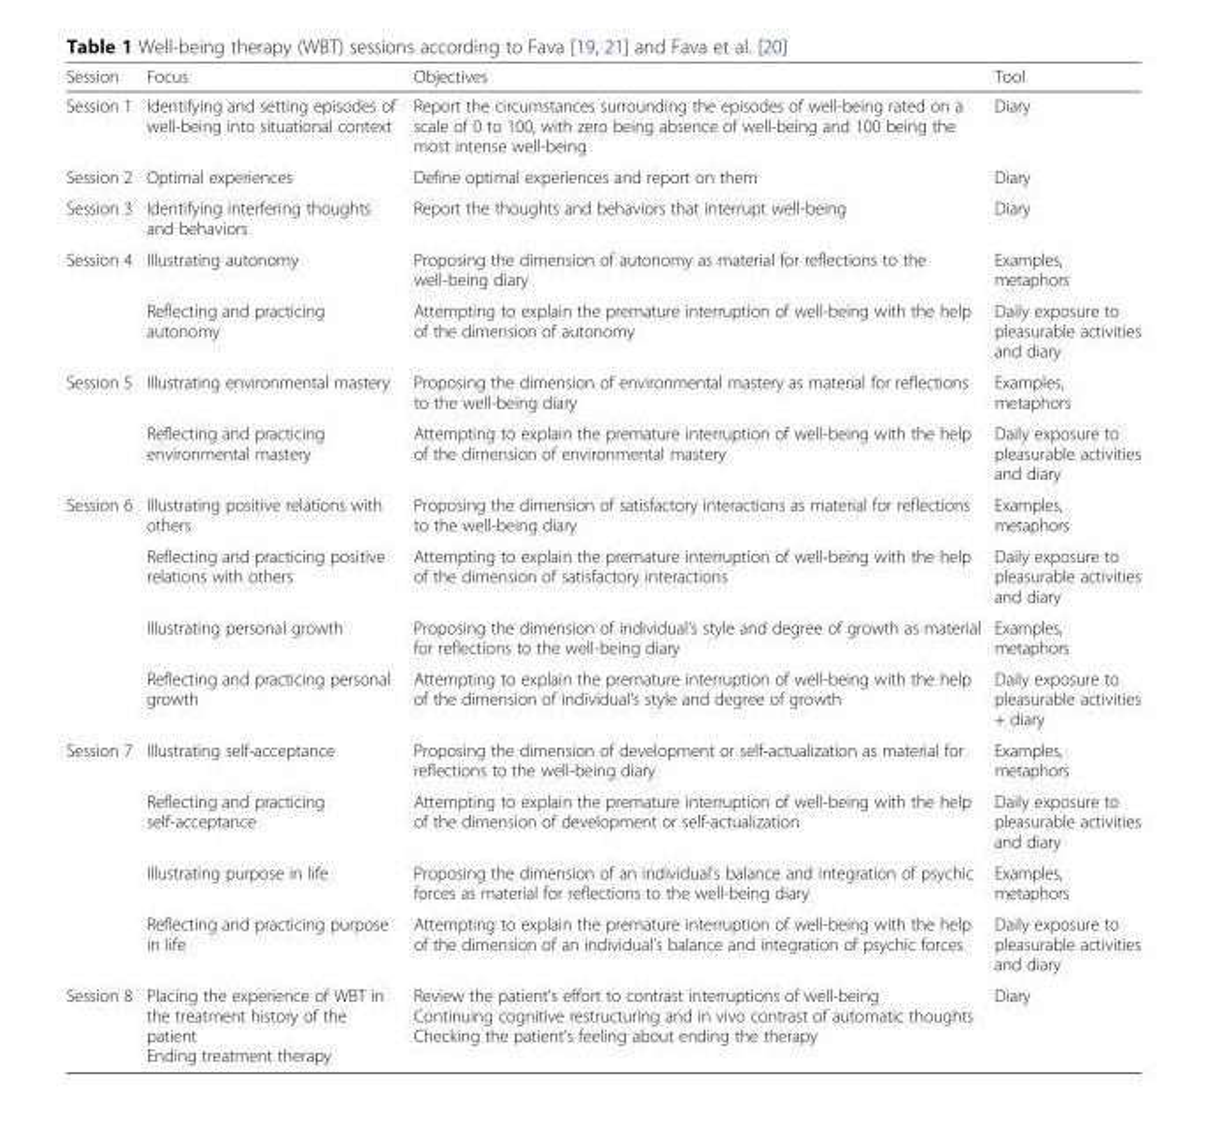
<table><thead><tr><td>Session</td><td>Focus</td><td>Objectives</td><td>Tool</td></tr></thead><tbody><tr><td>Session 1</td><td>Identifying and setting episodes of well-being into situational context</td><td>Report the circumstances surrounding the episodes of well-being rated on a scale of 0 to 100, with zero being absence of well-being and 100 being the most intense well-being</td><td>Diary</td></tr><tr><td>Session 2</td><td>Optimal experiences</td><td>Define optimal experiences and report on them</td><td>Diary</td></tr><tr><td>Session 3</td><td>Identifying interfering thoughts and behaviors</td><td>Report the thoughts and behaviors that interrupt well-being</td><td>Diary</td></tr><tr><td rowspan="2">Session 4</td><td>Illustrating autonomy</td><td>Proposing the dimension of autonomy as material for reflections to the well-being diary</td><td>Examples, metaphors</td></tr><tr><td>Reflecting and practicing autonomy</td><td>Attempting to explain the premature interruption of well-being with the help of the dimension of autonomy</td><td>Daily exposure to pleasurable activities and diary</td></tr><tr><td rowspan="2">Session 5</td><td>Illustrating environmental mastery</td><td>Proposing the dimension of environmental mastery as material for reflections to the well-being diary</td><td>Examples, metaphors</td></tr><tr><td>Reflecting and practicing environmental mastery</td><td>Attempting to explain the premature interruption of well-being with the help of the dimension of environmental mastery</td><td>Daily exposure to pleasurable activities and diary</td></tr><tr><td rowspan="4">Session 6</td><td>Illustrating positive relations with others</td><td>Proposing the dimension of satisfactory interactions as material for reflections to the well-being diary</td><td>Examples, metaphors</td></tr><tr><td>Reflecting and practicing positive relations with others</td><td>Attempting to explain the premature interruption of well-being with the help of the dimension of satisfactory interactions</td><td>Daily exposure to pleasurable activities and diary</td></tr><tr><td>Illustrating personal growth</td><td>Proposing the dimension of individual’s style and degree of growth as material for reflections to the well-being diary</td><td>Examples, metaphors</td></tr><tr><td>Reflecting and practicing personal growth</td><td>Attempting to explain the premature interruption of well-being with the help of the dimension of individual’s style and degree of growth</td><td>Daily exposure to pleasurable activities + diary</td></tr><tr><td rowspan="4">Session 7</td><td>Illustrating self-acceptance</td><td>Proposing the dimension of development or self-actualization as material for reflections to the well-being diary</td><td>Examples, metaphors</td></tr><tr><td>Reflecting and practicing self-acceptance</td><td>Attempting to explain the premature interruption of well-being with the help of the dimension of development or self-actualization</td><td>Daily exposure to pleasurable activities and diary</td></tr><tr><td>Illustrating purpose in life</td><td>Proposing the dimension of an individual’s balance and integration of psychic forces as material for reflections to the well-being diary</td><td>Examples, metaphors</td></tr><tr><td>Reflecting and practicing purpose in life</td><td>Attempting to explain the premature interruption of well-being with the help of the dimension of an individual’s balance and integration of psychic forces</td><td>Daily exposure to pleasurable activities and diary</td></tr><tr><td>Session 8</td><td>Placing the experience of WBT in the treatment history of the patient Ending treatment therapy</td><td>Review the patient’s effort to contrast interruptions of well-being Continuing cognitive restructuring and in vivo contrast of automatic thoughts Checking the patient’s feeling about ending the therapy</td><td>Diary</td></tr></tbody></table>